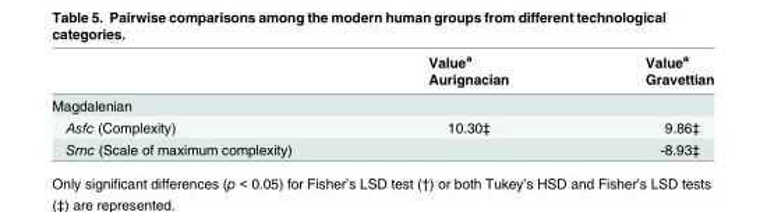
<table><thead><tr><td rowspan="2"></td><td rowspan="2">Value<sup>a</sup> Aurignacian</td><td rowspan="2">Value<sup>a</sup> Gravettian</td></tr><tr></tr></thead><tbody><tr><td colspan="3">Magdalenian</td></tr><tr><td>Asfc (Complexity)</td><td>10.30‡</td><td>9.86‡</td></tr><tr><td>Smc (Scale of maximum complexity)</td><td></td><td>-8.93‡</td></tr></tbody></table>